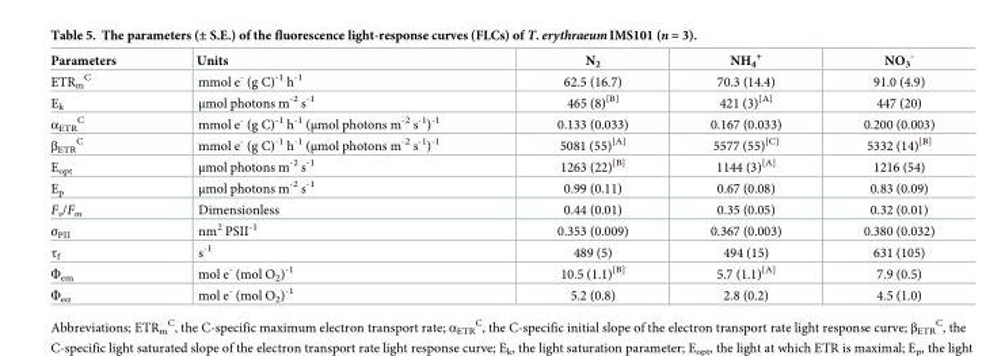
<table><thead><tr><td>Parameters</td><td>Units</td><td>N<sub>2</sub></td><td>NH<sub>4</sub> <sup>+</sup></td><td>NO<sub>3</sub> <sup>-</sup></td></tr></thead><tbody><tr><td>ETR<sub>m</sub> <sup>C</sup></td><td>mmol e<sup>-</sup> (g C)<sup>-1</sup> h<sup>-1</sup></td><td>62.5 (16.7)</td><td>70.3 (14.4)</td><td>91.0 (4.9)</td></tr><tr><td>E<sub>k</sub></td><td>μmol photons m<sup>-2</sup> s<sup>-1</sup></td><td>465 (8)<sup>[B]</sup></td><td>421 (3)<sup>[A]</sup></td><td>447 (20)</td></tr><tr><td>α<sub>ETR</sub> <sup>C</sup></td><td>mmol e<sup>-</sup> (g C)<sup>-1</sup> h<sup>-1</sup> (μmol photons m<sup>-2</sup> s<sup>-1</sup>)<sup>-1</sup></td><td>0.133 (0.033)</td><td>0.167 (0.033)</td><td>0.200 (0.003)</td></tr><tr><td>β<sub>ETR</sub> <sup>C</sup></td><td>mmol e<sup>-</sup> (g C)<sup>-1</sup> h<sup>-1</sup> (μmol photons m<sup>-2</sup> s<sup>-1</sup>)<sup>-1</sup></td><td>5081 (55)<sup>[A]</sup></td><td>5577 (55)<sup>[C]</sup></td><td>5332 (14)<sup>[B]</sup></td></tr><tr><td>E<sub>opt</sub></td><td>μmol photons m<sup>-2</sup> s<sup>-1</sup></td><td>1263 (22)<sup>[B]</sup></td><td>1144 (3)<sup>[A]</sup></td><td>1216 (54)</td></tr><tr><td>E<sub>p</sub></td><td>μmol photons m<sup>-2</sup> s<sup>-1</sup></td><td>0.99 (0.11)</td><td>0.67 (0.08)</td><td>0.83 (0.09)</td></tr><tr><td>F<sub>v</sub>/F<sub>m</sub></td><td>Dimensionless</td><td>0.44 (0.01)</td><td>0.35 (0.05)</td><td>0.32 (0.01)</td></tr><tr><td>σ<sub>PII</sub></td><td>nm<sup>2</sup> PSII<sup>-1</sup></td><td>0.353 (0.009)</td><td>0.367 (0.003)</td><td>0.380 (0.032)</td></tr><tr><td>τ<sub>f</sub></td><td>s<sup>-1</sup></td><td>489 (5)</td><td>494 (15)</td><td>631 (105)</td></tr><tr><td>Φ<sub>em</sub></td><td>mol e<sup>-</sup> (mol O<sub>2</sub>)<sup>-1</sup></td><td>10.5 (1.1)<sup>[B]</sup></td><td>5.7 (1.1)<sup>[A]</sup></td><td>7.9 (0.5)</td></tr><tr><td>Φ<sub>eα</sub></td><td>mol e<sup>-</sup> (mol O<sub>2</sub>)<sup>-1</sup></td><td>5.2 (0.8)</td><td>2.8 (0.2)</td><td>4.5 (1.0)</td></tr></tbody></table>